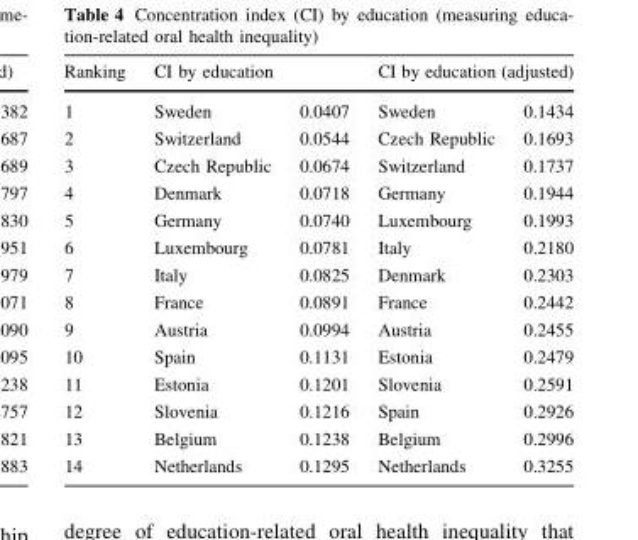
<table><thead><tr><td rowspan="2">Ranking 1</td><td colspan="2">CI by education</td><td colspan="2">CI by education (adjusted)</td></tr><tr><td>Sweden</td><td>0.0407</td><td>Sweden</td><td>0.1434</td></tr></thead><tbody><tr><td>2</td><td>Switzerland</td><td>0.0544</td><td>Czech Republic</td><td>0.1693</td></tr><tr><td>3</td><td>Czech Republic</td><td>0.0674</td><td>Switzerland</td><td>0.1737</td></tr><tr><td>4</td><td>Denmark</td><td>0.0718</td><td>Germany</td><td>0.1944</td></tr><tr><td>5</td><td>Germany</td><td>0.0740</td><td>Luxembourg</td><td>0.1993</td></tr><tr><td>6</td><td>Luxembourg</td><td>0.0781</td><td>Italy</td><td>0.2180</td></tr><tr><td>7</td><td>Italy</td><td>0.0825</td><td>Denmark</td><td>0.2303</td></tr><tr><td>8</td><td>France</td><td>0.0891</td><td>France</td><td>0.2442</td></tr><tr><td>9</td><td>Austria</td><td>0.0994</td><td>Austria</td><td>0.2455</td></tr><tr><td>10</td><td>Spain</td><td>0.1131</td><td>Estonia</td><td>0.2479</td></tr><tr><td>11</td><td>Estonia</td><td>0.1201</td><td>Slovenia</td><td>0.2591</td></tr><tr><td>12</td><td>Slovenia</td><td>0.1216</td><td>Spain</td><td>0.2926</td></tr><tr><td>13</td><td>Belgium</td><td>0.1238</td><td>Belgium</td><td>0.2996</td></tr><tr><td>14</td><td>Netherlands</td><td>0.1295</td><td>Netherlands</td><td>0.3255</td></tr></tbody></table>